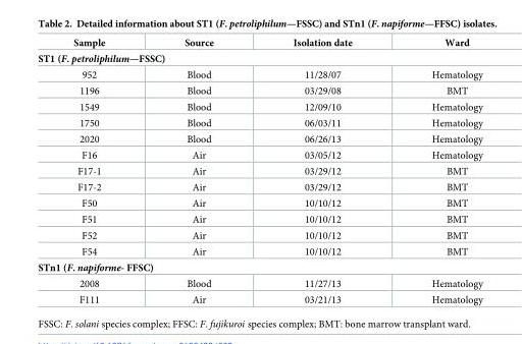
<table><thead><tr><td>Sample</td><td>Source</td><td>Isolation date</td><td>Ward</td></tr></thead><tbody><tr><td colspan="4">ST1 (F. petroliphilum—FSSC)</td></tr><tr><td>952</td><td>Blood</td><td>11/28/07</td><td>Hematology</td></tr><tr><td>1196</td><td>Blood</td><td>03/29/08</td><td>BMT</td></tr><tr><td>1549</td><td>Blood</td><td>12/09/10</td><td>Hematology</td></tr><tr><td>1750</td><td>Blood</td><td>06/03/11</td><td>Hematology</td></tr><tr><td>2020</td><td>Blood</td><td>06/26/13</td><td>Hematology</td></tr><tr><td>F16</td><td>Air</td><td>03/05/12</td><td>Hematology</td></tr><tr><td>F17-1</td><td>Air</td><td>03/29/12</td><td>BMT</td></tr><tr><td>F17-2</td><td>Air</td><td>03/29/12</td><td>BMT</td></tr><tr><td>F50</td><td>Air</td><td>10/10/12</td><td>BMT</td></tr><tr><td>F51</td><td>Air</td><td>10/10/12</td><td>BMT</td></tr><tr><td>F52</td><td>Air</td><td>10/10/12</td><td>BMT</td></tr><tr><td>F54</td><td>Air</td><td>10/10/12</td><td>BMT</td></tr><tr><td colspan="4">STn1 (F. napiforme- FFSC)</td></tr><tr><td>2008</td><td>Blood</td><td>11/27/13</td><td>Hematology</td></tr><tr><td>F111</td><td>Air</td><td>03/21/13</td><td>Hematology</td></tr></tbody></table>